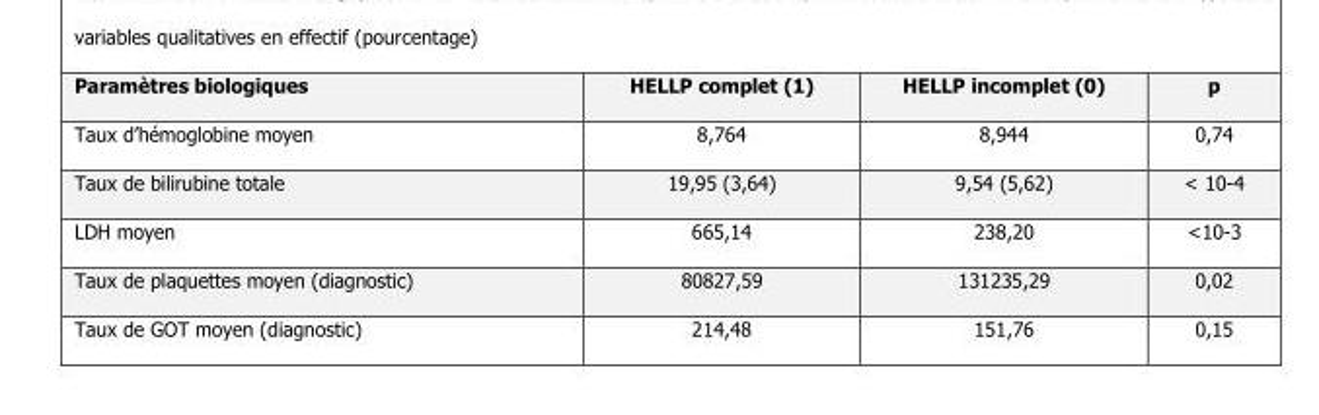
<table><thead><tr><td>Paramètres biologiques</td><td>HELLP complet (1)</td><td>HELLP incomplet (0)</td><td>p</td></tr></thead><tbody><tr><td>Taux d’hémoglobine moyen</td><td>8,764</td><td>8,944</td><td>0,74</td></tr><tr><td>Taux de bilirubine totale</td><td>19,95 (3,64)</td><td>9,54 (5,62)</td><td>&lt; 10-4</td></tr><tr><td>LDH moyen</td><td>665,14</td><td>238,20</td><td>&lt;10-3</td></tr><tr><td>Taux de plaquettes moyen (diagnostic)</td><td>80827,59</td><td>131235,29</td><td>0,02</td></tr><tr><td>Taux de GOT moyen (diagnostic)</td><td>214,48</td><td>151,76</td><td>0,15</td></tr></tbody></table>